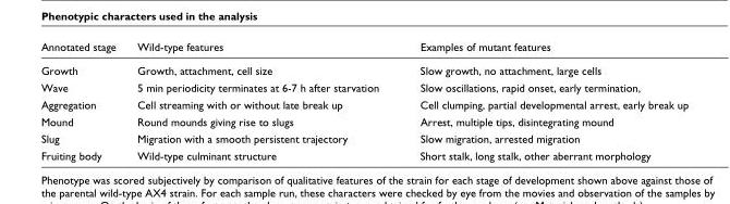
<table><thead><tr><td>Annotated stage</td><td>Wild-type features</td><td>Examples of mutant features</td></tr></thead><tbody><tr><td>Growth</td><td>Growth, attachment, cell size</td><td>Slow growth, no attachment, large cells</td></tr><tr><td>Wave</td><td>5 min periodicity terminates at 6-7 h after starvation</td><td>Slow oscillations, rapid onset, early termination,</td></tr><tr><td>Aggregation</td><td>Cell streaming with or without late break up</td><td>Cell clumping, partial developmental arrest, early break up</td></tr><tr><td>Mound</td><td>Round mounds giving rise to slugs</td><td>Arrest, multiple tips, disintegrating mound</td></tr><tr><td>Slug</td><td>Migration with a smooth persistent trajectory</td><td>Slow migration, arrested migration</td></tr><tr><td>Fruiting body</td><td>Wild-type culminant structure</td><td>Short stalk, long stalk, other aberrant morphology</td></tr></tbody></table>